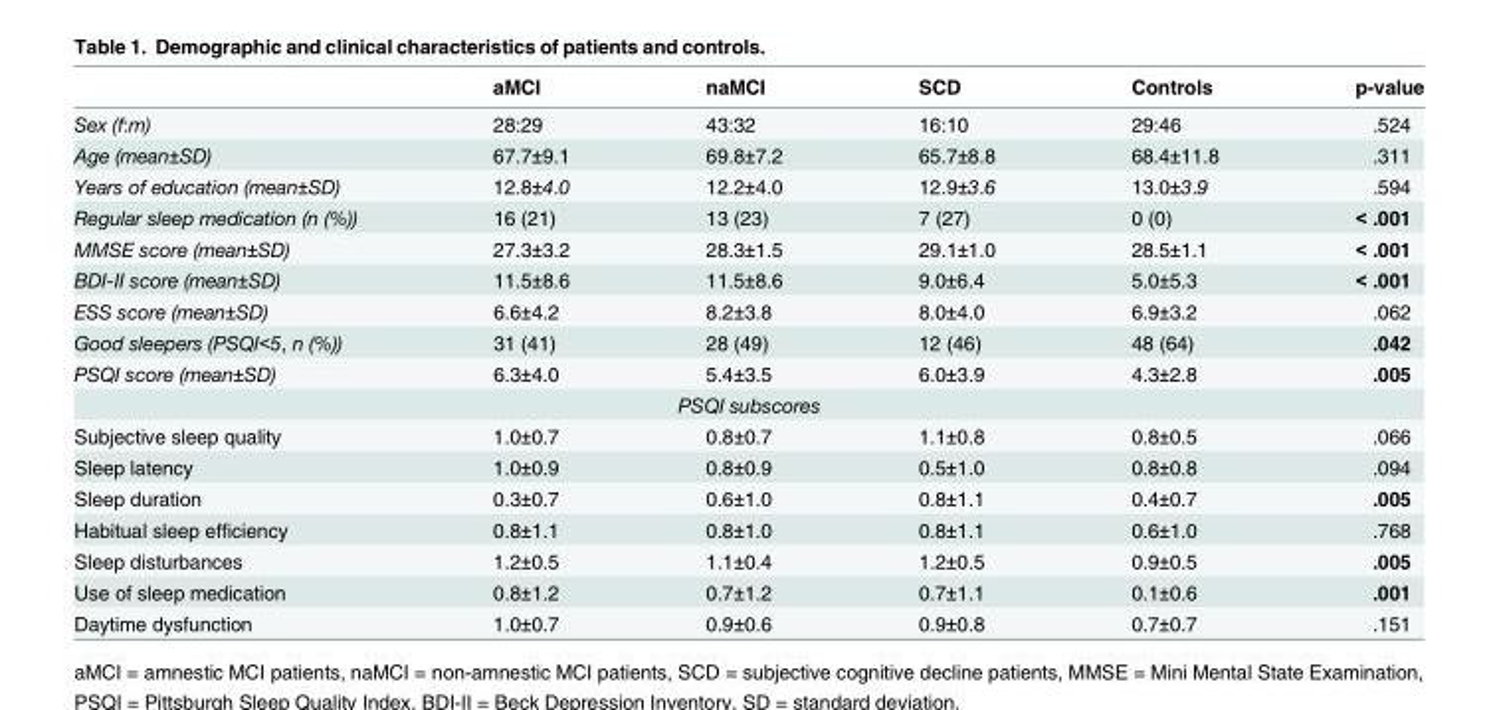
<table><thead><tr><td></td><td>aMCI</td><td>naMCI</td><td>SCD</td><td>Controls</td><td>p-value</td></tr></thead><tbody><tr><td>Sex (f:m)</td><td>28:29</td><td>43:32</td><td>16:10</td><td>29:46</td><td>.524</td></tr><tr><td>Age (mean±SD)</td><td>67.7±9.1</td><td>69.8±7.2</td><td>65.7±8.8</td><td>68.4±11.8</td><td>.311</td></tr><tr><td>Years of education (mean±SD)</td><td>12.8±4.0</td><td>12.2±4.0</td><td>12.9±3.6</td><td>13.0±3.9</td><td>.594</td></tr><tr><td>Regular sleep medication (n (%))</td><td>16 (21)</td><td>13 (23)</td><td>7 (27)</td><td>0 (0)</td><td>&lt; .001</td></tr><tr><td>MMSE score (mean±SD)</td><td>27.3±3.2</td><td>28.3±1.5</td><td>29.1±1.0</td><td>28.5±1.1</td><td>&lt; .001</td></tr><tr><td>BDI-II score (mean±SD)</td><td>11.5±8.6</td><td>11.5±8.6</td><td>9.0±6.4</td><td>5.0±5.3</td><td>&lt; .001</td></tr><tr><td>ESS score (mean±SD)</td><td>6.6±4.2</td><td>8.2±3.8</td><td>8.0±4.0</td><td>6.9±3.2</td><td>.062</td></tr><tr><td>Good sleepers (PSQI&lt;5, n (%))</td><td>31 (41)</td><td>28 (49)</td><td>12 (46)</td><td>48 (64)</td><td>.042</td></tr><tr><td>PSQI score (mean±SD)</td><td>6.3±4.0</td><td>5.4±3.5</td><td>6.0±3.9</td><td>4.3±2.8</td><td>.005</td></tr><tr><td colspan="6">PSQI subscores</td></tr><tr><td>Subjective sleep quality</td><td>1.0±0.7</td><td>0.8±0.7</td><td>1.1±0.8</td><td>0.8±0.5</td><td>.066</td></tr><tr><td>Sleep latency</td><td>1.0±0.9</td><td>0.8±0.9</td><td>0.5±1.0</td><td>0.8±0.8</td><td>.094</td></tr><tr><td>Sleep duration</td><td>0.3±0.7</td><td>0.6±1.0</td><td>0.8±1.1</td><td>0.4±0.7</td><td>.005</td></tr><tr><td>Habitual sleep efficiency</td><td>0.8±1.1</td><td>0.8±1.0</td><td>0.8±1.1</td><td>0.6±1.0</td><td>.768</td></tr><tr><td>Sleep disturbances</td><td>1.2±0.5</td><td>1.1±0.4</td><td>1.2±0.5</td><td>0.9±0.5</td><td>.005</td></tr><tr><td>Use of sleep medication</td><td>0.8±1.2</td><td>0.7±1.2</td><td>0.7±1.1</td><td>0.1±0.6</td><td>.001</td></tr><tr><td>Daytime dysfunction</td><td>1.0±0.7</td><td>0.9±0.6</td><td>0.9±0.8</td><td>0.7±0.7</td><td>.151</td></tr></tbody></table>